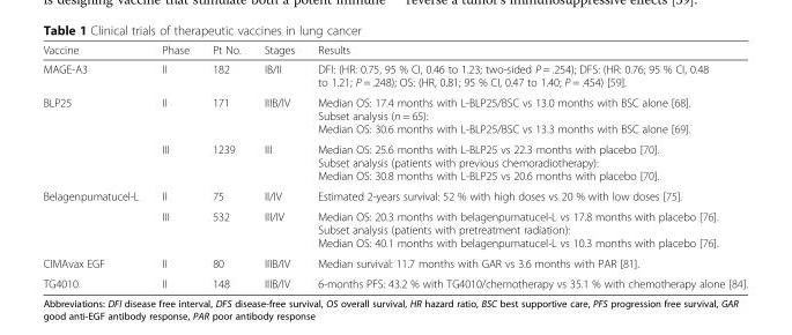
<table><thead><tr><td>Vaccine</td><td>Phase</td><td>Pt No.</td><td>Stages</td><td>Results</td></tr></thead><tbody><tr><td>MAGE-A3</td><td>II</td><td>182</td><td>IB/II</td><td>DFI: (HR: 0.75, 95 % CI, 0.46 to 1.23; two-sided P = .254); DFS: (HR: 0.76; 95 % CI, 0.48 to 1.21; P = .248); OS: (HR, 0.81; 95 % CI, 0.47 to 1.40; P = .454) [59].</td></tr><tr><td rowspan="2">BLP25</td><td>II</td><td>171</td><td>IIIB/IV</td><td>Median OS: 17.4 months with L-BLP25/BSC vs 13.0 months with BSC alone [68]. Subset analysis (n = 65): Median OS: 30.6 months with L-BLP25/BSC vs 13.3 months with BSC alone [69].</td></tr><tr><td>III</td><td>1239</td><td>III</td><td>Median OS: 25.6 months with L-BLP25 vs 22.3 months with placebo [70]. Subset analysis (patients with previous chemoradiotherapy): Median OS: 30.8 months with L-BLP25 vs 20.6 months with placebo [70].</td></tr><tr><td rowspan="2">Belagenpumatucel-L</td><td>II</td><td>75</td><td>II/IV</td><td>Estimated 2-years survival: 52 % with high doses vs 20 % with low doses [75].</td></tr><tr><td>III</td><td>532</td><td>III/IV</td><td>Median OS: 20.3 months with belagenpumatucel-L vs 17.8 months with placebo [76]. Subset analysis (patients with pretreatment radiation): Median OS: 40.1 months with belagenpumatucel-L vs 10.3 months with placebo [76].</td></tr><tr><td>CIMAvax EGF</td><td>II</td><td>80</td><td>IIIB/IV</td><td>Median survival: 11.7 months with GAR vs 3.6 months with PAR [81].</td></tr><tr><td>TG4010</td><td>II</td><td>148</td><td>IIIB/IV</td><td>6-months PFS: 43.2 % with TG4010/chemotherapy vs 35.1 % with chemotherapy alone [84].</td></tr></tbody></table>